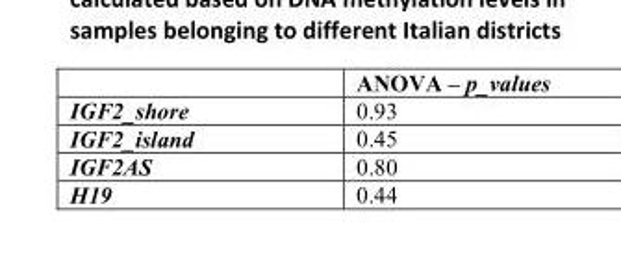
<table><thead><tr><td></td><td>ANOVA – p_values</td></tr></thead><tbody><tr><td>IGF2_shore</td><td>0.93</td></tr><tr><td>IGF2_island</td><td>0.45</td></tr><tr><td>IGF2AS</td><td>0.80</td></tr><tr><td>H19</td><td>0.44</td></tr></tbody></table>